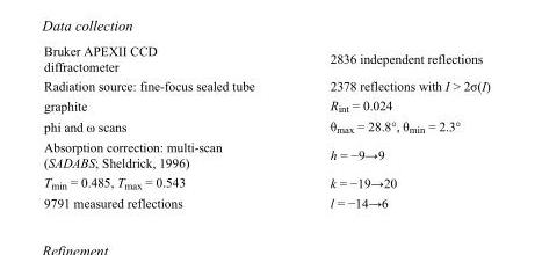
<table><tbody><tr><td>Bruker APEXII CCD diffractometer</td><td>2836 independent reflections</td></tr><tr><td>Radiation source: fine-focus sealed tube</td><td>2378 reflections with I &gt; 2σ(I)</td></tr><tr><td>graphite</td><td>R<sub>int</sub> = 0.024</td></tr><tr><td>phi and ω scans</td><td>θ<sub>max</sub> = 28.8°, θ<sub>min</sub> = 2.3°</td></tr><tr><td>Absorption correction: multi-scan (SADABS; Sheldrick, 1996)</td><td>h = −9→9</td></tr><tr><td>T<sub>min</sub> = 0.485, T<sub>max</sub> = 0.543</td><td>k = −19→20</td></tr><tr><td>9791 measured reflections</td><td>l = −14→6</td></tr></tbody></table>